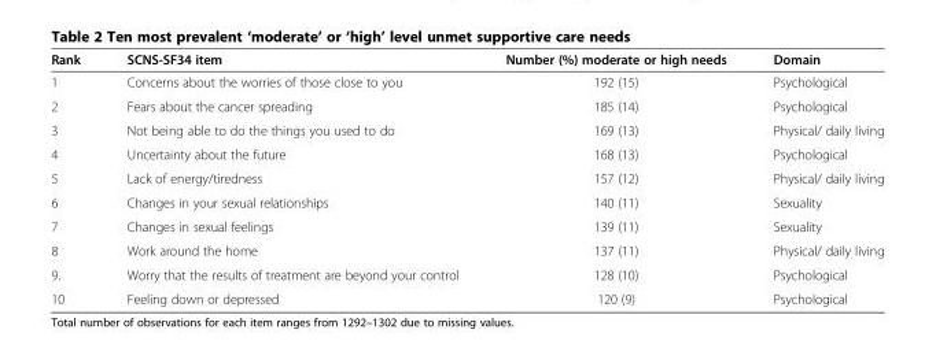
<table><thead><tr><td>Rank</td><td>SCNS-SF34 item</td><td>Number (%) moderate or high needs</td><td>Domain</td></tr></thead><tbody><tr><td>1</td><td>Concerns about the worries of those close to you</td><td>192 (15)</td><td>Psychological</td></tr><tr><td>2</td><td>Fears about the cancer spreading</td><td>185 (14)</td><td>Psychological</td></tr><tr><td>3</td><td>Not being able to do the things you used to do</td><td>169 (13)</td><td>Physical/ daily living</td></tr><tr><td>4</td><td>Uncertainty about the future</td><td>168 (13)</td><td>Psychological</td></tr><tr><td>5</td><td>Lack of energy/tiredness</td><td>157 (12)</td><td>Physical/ daily living</td></tr><tr><td>6</td><td>Changes in your sexual relationships</td><td>140 (11)</td><td>Sexuality</td></tr><tr><td>7</td><td>Changes in sexual feelings</td><td>139 (11)</td><td>Sexuality</td></tr><tr><td>8</td><td>Work around the home</td><td>137 (11)</td><td>Physical/ daily living</td></tr><tr><td>9.</td><td>Worry that the results of treatment are beyond your control</td><td>128 (10)</td><td>Psychological</td></tr><tr><td>10</td><td>Feeling down or depressed</td><td>120 (9)</td><td>Psychological</td></tr></tbody></table>